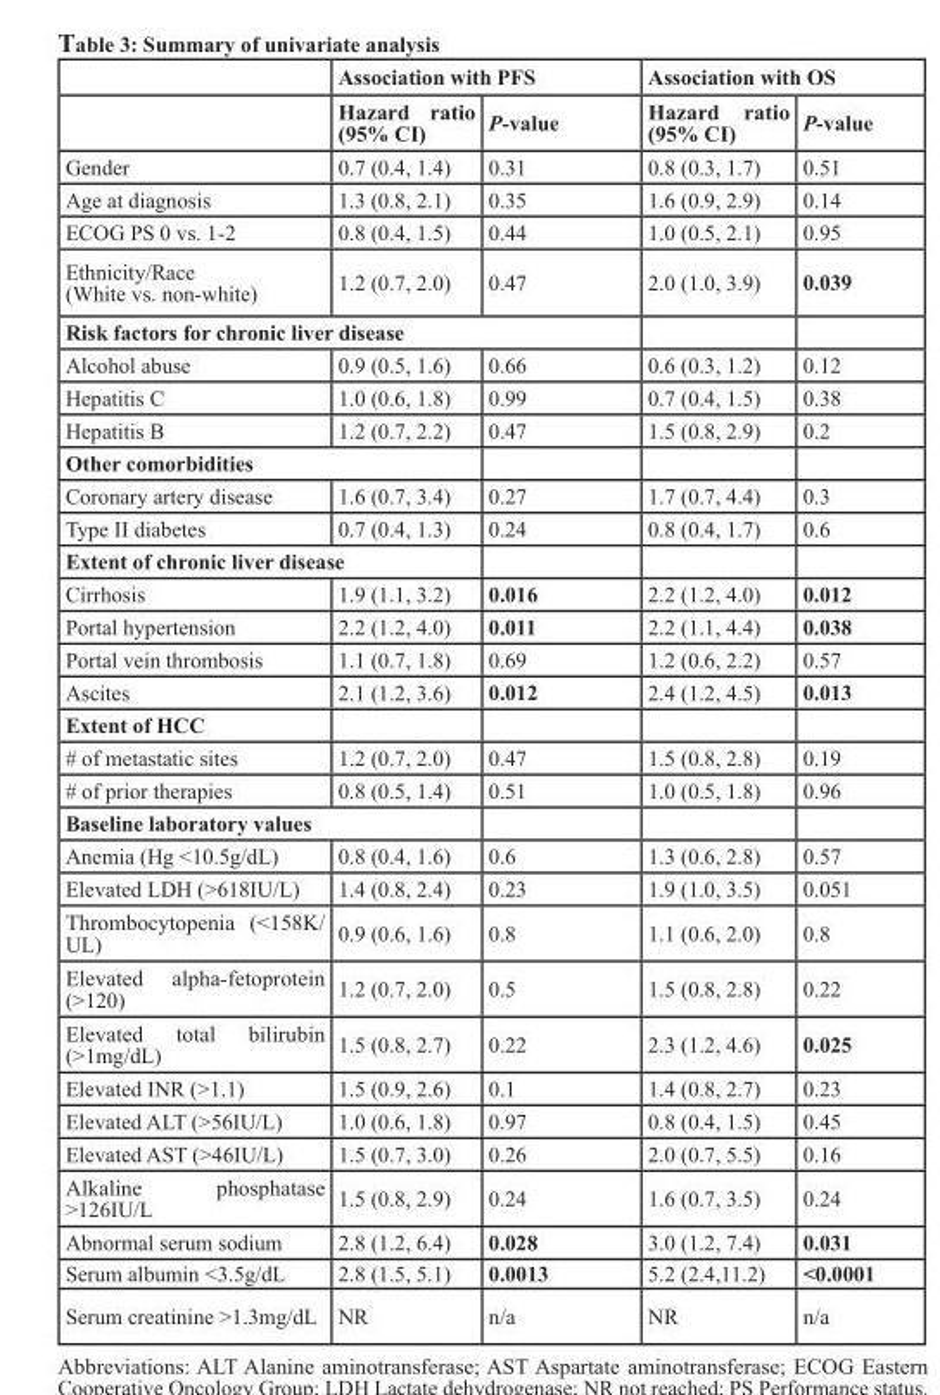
<table><thead><tr><td rowspan="2"></td><td colspan="2">Association with PFS</td><td colspan="2">Association with OS</td></tr><tr><td>Hazard ratio (95% CI)</td><td>P-value</td><td>Hazard ratio (95% CI)</td><td>P-value</td></tr></thead><tbody><tr><td>Gender</td><td>0.7 (0.4, 1.4)</td><td>0.31</td><td>0.8 (0.3, 1.7)</td><td>0.51</td></tr><tr><td>Age at diagnosis</td><td>1.3 (0.8, 2.1)</td><td>0.35</td><td>1.6 (0.9, 2.9)</td><td>0.14</td></tr><tr><td>ECOG PS 0 vs. 1-2</td><td>0.8 (0.4, 1.5)</td><td>0.44</td><td>1.0 (0.5, 2.1)</td><td>0.95</td></tr><tr><td>Ethnicity/Race (White vs. non-white)</td><td>1.2 (0.7, 2.0)</td><td>0.47</td><td>2.0 (1.0, 3.9)</td><td>0.039</td></tr><tr><td colspan="5">Risk factors for chronic liver disease</td></tr><tr><td>Alcohol abuse</td><td>0.9 (0.5, 1.6)</td><td>0.66</td><td>0.6 (0.3, 1.2)</td><td>0.12</td></tr><tr><td>Hepatitis C</td><td>1.0 (0.6, 1.8)</td><td>0.99</td><td>0.7 (0.4, 1.5)</td><td>0.38</td></tr><tr><td>Hepatitis B</td><td>1.2 (0.7, 2.2)</td><td>0.47</td><td>1.5 (0.8, 2.9)</td><td>0.2</td></tr><tr><td colspan="5">Other comorbidities</td></tr><tr><td>Coronary artery disease</td><td>1.6 (0.7, 3.4)</td><td>0.27</td><td>1.7 (0.7, 4.4)</td><td>0.3</td></tr><tr><td>Type II diabetes</td><td>0.7 (0.4, 1.3)</td><td>0.24</td><td>0.8 (0.4, 1.7)</td><td>0.6</td></tr><tr><td colspan="5">Extent of chronic liver disease</td></tr><tr><td>Cirrhosis</td><td>1.9 (1.1, 3.2)</td><td>0.016</td><td>2.2 (1.2, 4.0)</td><td>0.012</td></tr><tr><td>Portal hypertension</td><td>2.2 (1.2, 4.0)</td><td>0.011</td><td>2.2 (1.1, 4.4)</td><td>0.038</td></tr><tr><td>Portal vein thrombosis</td><td>1.1 (0.7, 1.8)</td><td>0.69</td><td>1.2 (0.6, 2.2)</td><td>0.57</td></tr><tr><td>Ascites</td><td>2.1 (1.2, 3.6)</td><td>0.012</td><td>2.4 (1.2, 4.5)</td><td>0.013</td></tr><tr><td colspan="5">Extent of HCC</td></tr><tr><td># of metastatic sites</td><td>1.2 (0.7, 2.0)</td><td>0.47</td><td>1.5 (0.8, 2.8)</td><td>0.19</td></tr><tr><td># of prior therapies</td><td>0.8 (0.5, 1.4)</td><td>0.51</td><td>1.0 (0.5, 1.8)</td><td>0.96</td></tr><tr><td colspan="5">Baseline laboratory values</td></tr><tr><td>Anemia (Hg &lt;10.5g/dL)</td><td>0.8 (0.4, 1.6)</td><td>0.6</td><td>1.3 (0.6, 2.8)</td><td>0.57</td></tr><tr><td>Elevated LDH (&gt;618IU/L)</td><td>1.4 (0.8, 2.4)</td><td>0.23</td><td>1.9 (1.0, 3.5)</td><td>0.051</td></tr><tr><td>Thrombocytopenia (&lt;158K/ UL)</td><td>0.9 (0.6, 1.6)</td><td>0.8</td><td>1.1 (0.6, 2.0)</td><td>0.8</td></tr><tr><td>Elevated alpha-fetoprotein (&gt;120)</td><td>1.2 (0.7, 2.0)</td><td>0.5</td><td>1.5 (0.8, 2.8)</td><td>0.22</td></tr><tr><td>Elevated total bilirubin (&gt;1mg/dL)</td><td>1.5 (0.8, 2.7)</td><td>0.22</td><td>2.3 (1.2, 4.6)</td><td>0.025</td></tr><tr><td>Elevated INR (&gt;1.1)</td><td>1.5 (0.9, 2.6)</td><td>0.1</td><td>1.4 (0.8, 2.7)</td><td>0.23</td></tr><tr><td>Elevated ALT (&gt;56IU/L)</td><td>1.0 (0.6, 1.8)</td><td>0.97</td><td>0.8 (0.4, 1.5)</td><td>0.45</td></tr><tr><td>Elevated AST (&gt;46IU/L)</td><td>1.5 (0.7, 3.0)</td><td>0.26</td><td>2.0 (0.7, 5.5)</td><td>0.16</td></tr><tr><td>Alkaline phosphatase &gt;126IU/L</td><td>1.5 (0.8, 2.9)</td><td>0.24</td><td>1.6 (0.7, 3.5)</td><td>0.24</td></tr><tr><td>Abnormal serum sodium</td><td>2.8 (1.2, 6.4)</td><td>0.028</td><td>3.0 (1.2, 7.4)</td><td>0.031</td></tr><tr><td>Serum albumin &lt;3.5g/dL</td><td>2.8 (1.5, 5.1)</td><td>0.0013</td><td>5.2 (2.4,11.2)</td><td>&lt;0.0001</td></tr><tr><td>Serum creatinine &gt;1.3mg/dL</td><td>NR</td><td>n/a</td><td>NR</td><td>n/a</td></tr></tbody></table>